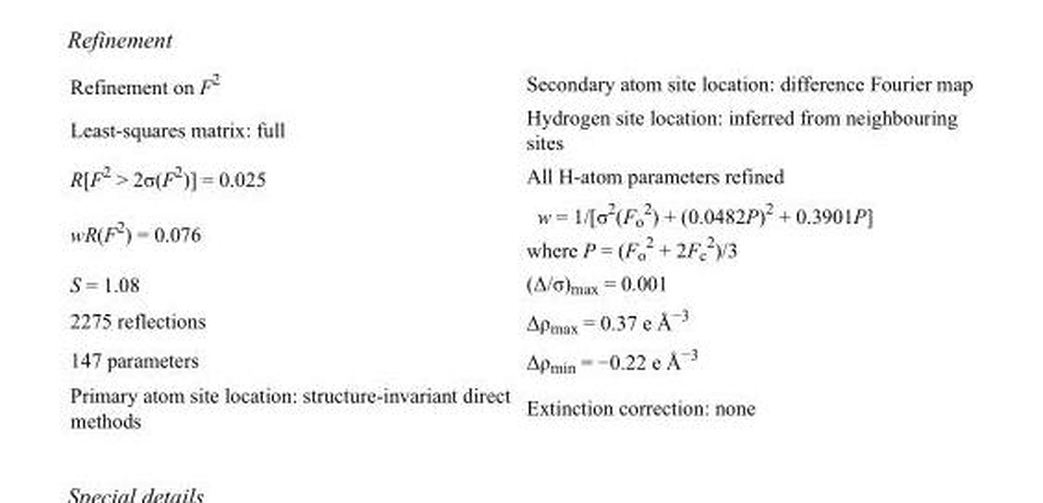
<table><tbody><tr><td>Refinement on F<sup>2</sup></td><td>Secondary atom site location: difference Fourier map</td></tr><tr><td>Least-squares matrix: full</td><td>Hydrogen site location: inferred from neighbouring sites</td></tr><tr><td>R[F<sup>2</sup> &gt; 2σ(F<sup>2</sup>)] = 0.025</td><td>All H-atom parameters refined</td></tr><tr><td>wR(F<sup>2</sup>) = 0.076</td><td>w = 1/[σ<sup>2</sup>(F<sub>o</sub> <sup>2</sup>) + (0.0482P)<sup>2</sup> + 0.3901P] where P = (F<sub>o</sub> <sup>2</sup> + 2F<sub>c</sub> <sup>2</sup>)/3</td></tr><tr><td>S = 1.08</td><td>(Δ/σ)<sub>max</sub> = 0.001</td></tr><tr><td>2275 reflections</td><td>Δρ<sub>max</sub> = 0.37 e Å<sup>−3</sup></td></tr><tr><td>147 parameters</td><td>Δρ<sub>min</sub> = −0.22 e Å<sup>−3</sup></td></tr><tr><td>Primary atom site location: structure-invariant direct methods</td><td>Extinction correction: none</td></tr></tbody></table>